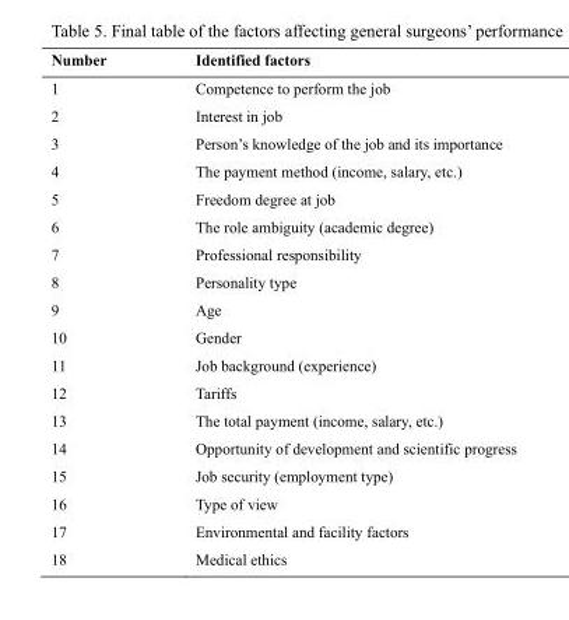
<table><thead><tr><td>Number</td><td>Identified factors</td></tr></thead><tbody><tr><td>1</td><td>Competence to perform the job</td></tr><tr><td>2</td><td>Interest in job</td></tr><tr><td>3</td><td>Person’s knowledge of the job and its importance</td></tr><tr><td>4</td><td>The payment method (income, salary, etc.)</td></tr><tr><td>5</td><td>Freedom degree at job</td></tr><tr><td>6</td><td>The role ambiguity (academic degree)</td></tr><tr><td>7</td><td>Professional responsibility</td></tr><tr><td>8</td><td>Personality type</td></tr><tr><td>9</td><td>Age</td></tr><tr><td>10</td><td>Gender</td></tr><tr><td>11</td><td>Job background (experience)</td></tr><tr><td>12</td><td>Tariffs</td></tr><tr><td>13</td><td>The total payment (income, salary, etc.)</td></tr><tr><td>14</td><td>Opportunity of development and scientific progress</td></tr><tr><td>15</td><td>Job security (employment type)</td></tr><tr><td>16</td><td>Type of view</td></tr><tr><td>17</td><td>Environmental and facility factors</td></tr><tr><td>18</td><td>Medical ethics</td></tr></tbody></table>